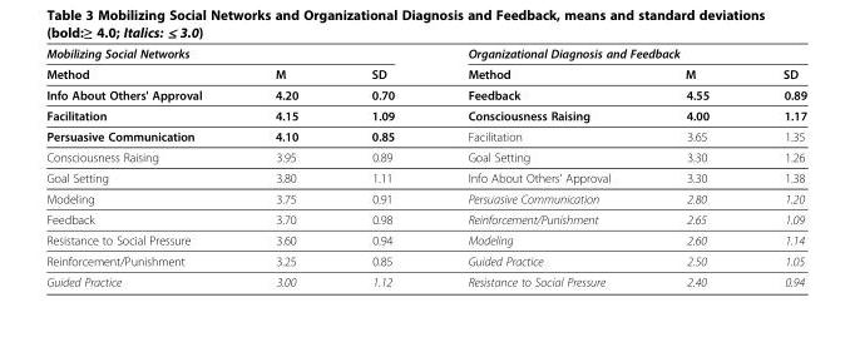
<table><thead><tr><td colspan="3">Mobilizing Social Networks</td><td colspan="3">Organizational Diagnosis and Feedback</td></tr><tr><td>Method</td><td>M</td><td>SD</td><td>Method</td><td>M</td><td>SD</td></tr></thead><tbody><tr><td>Info About Others&#x27; Approval</td><td>4.20</td><td>0.70</td><td>Feedback</td><td>4.55</td><td>0.89</td></tr><tr><td>Facilitation</td><td>4.15</td><td>1.09</td><td>Consciousness Raising</td><td>4.00</td><td>1.17</td></tr><tr><td>Persuasive Communication</td><td>4.10</td><td>0.85</td><td>Facilitation</td><td>3.65</td><td>1.35</td></tr><tr><td>Consciousness Raising</td><td>3.95</td><td>0.89</td><td>Goal Setting</td><td>3.30</td><td>1.26</td></tr><tr><td>Goal Setting</td><td>3.80</td><td>1.11</td><td>Info About Others&#x27; Approval</td><td>3.30</td><td>1.38</td></tr><tr><td>Modeling</td><td>3.75</td><td>0.91</td><td>Persuasive Communication</td><td>2.80</td><td>1.20</td></tr><tr><td>Feedback</td><td>3.70</td><td>0.98</td><td>Reinforcement/Punishment</td><td>2.65</td><td>1.09</td></tr><tr><td>Resistance to Social Pressure</td><td>3.60</td><td>0.94</td><td>Modeling</td><td>2.60</td><td>1.14</td></tr><tr><td>Reinforcement/Punishment</td><td>3.25</td><td>0.85</td><td>Guided Practice</td><td>2.50</td><td>1.05</td></tr><tr><td>Guided Practice</td><td>3.00</td><td>1.12</td><td>Resistance to Social Pressure</td><td>2.40</td><td>0.94</td></tr></tbody></table>